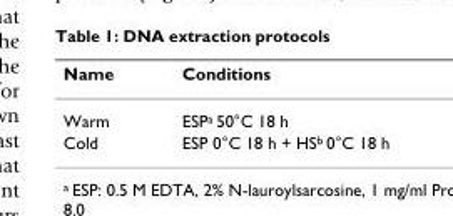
<table><thead><tr><td>Name</td><td>Conditions</td></tr></thead><tbody><tr><td>Warm</td><td>ESP<sup>a</sup> 50°C 18 h</td></tr><tr><td>Cold</td><td>ESP 0°C 18 h + HS<sup>b</sup> 0°C 18 h</td></tr></tbody></table>